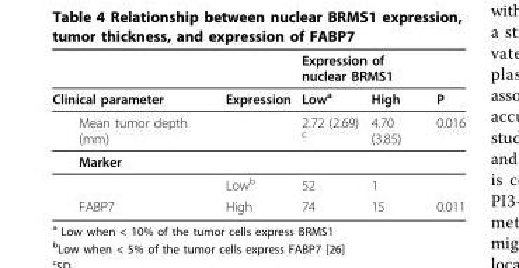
<table><thead><tr><td rowspan="2">Clinical parameter</td><td rowspan="2">Expression</td><td colspan="2">Expression of nuclear BRMS1</td><td rowspan="2">P</td></tr><tr><td>Low<sup>a</sup></td><td>High</td></tr></thead><tbody><tr><td>Mean tumor depth (mm)</td><td></td><td>2.72 (2.69) <sup>c</sup></td><td>4.70 (3.85)</td><td>0.016</td></tr><tr><td colspan="5">Marker</td></tr><tr><td></td><td>Low<sup>b</sup></td><td>52</td><td>1</td><td></td></tr><tr><td>FABP7</td><td>High</td><td>74</td><td>15</td><td>0.011</td></tr></tbody></table>